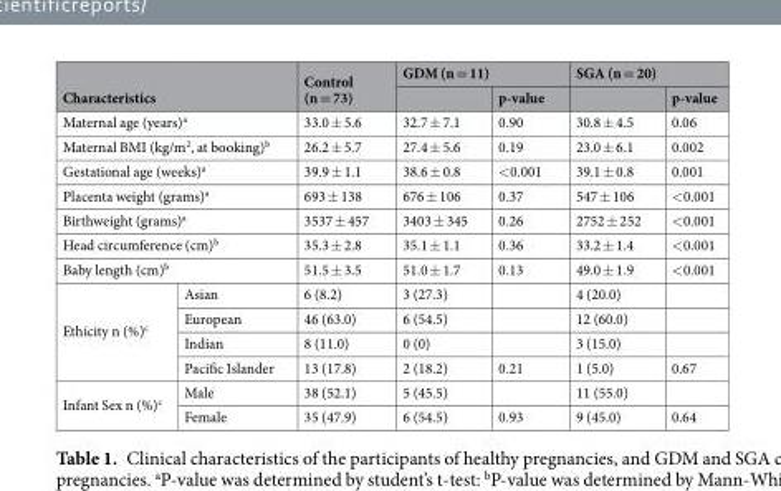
<table><thead><tr><td rowspan="2" colspan="2">Characteristics</td><td rowspan="2">Control (n = 73)</td><td colspan="2">GDM (n = 11)</td><td colspan="2">SGA (n = 20)</td></tr><tr><td></td><td>p-value</td><td></td><td>p-value</td></tr></thead><tbody><tr><td colspan="2">Maternal age (years)<sup>a</sup></td><td>33.0 ± 5.6</td><td>32.7 ± 7.1</td><td>0.90</td><td>30.8 ± 4.5</td><td>0.06</td></tr><tr><td colspan="2">Maternal BMI (kg/m<sup>2</sup>, at booking)<sup>b</sup></td><td>26.2 ± 5.7</td><td>27.4 ± 5.6</td><td>0.19</td><td>23.0 ± 6.1</td><td>0.002</td></tr><tr><td colspan="2">Gestational age (weeks)<sup>a</sup></td><td>39.9 ± 1.1</td><td>38.6 ± 0.8</td><td>&lt;0.001</td><td>39.1 ± 0.8</td><td>0.001</td></tr><tr><td colspan="2">Placenta weight (grams)<sup>a</sup></td><td>693 ± 138</td><td>676 ± 106</td><td>0.37</td><td>547 ± 106</td><td>&lt;0.001</td></tr><tr><td colspan="2">Birthweight (grams)<sup>a</sup></td><td>3537 ± 457</td><td>3403 ± 345</td><td>0.26</td><td>2752 ± 252</td><td>&lt;0.001</td></tr><tr><td colspan="2">Head circumference (cm)<sup>b</sup></td><td>35.3 ± 2.8</td><td>35.1 ± 1.1</td><td>0.36</td><td>33.2 ± 1.4</td><td>&lt;0.001</td></tr><tr><td colspan="2">Baby length (cm)<sup>b</sup></td><td>51.5 ± 3.5</td><td>51.0 ± 1.7</td><td>0.13</td><td>49.0 ± 1.9</td><td>&lt;0.001</td></tr><tr><td rowspan="4">Ethicity n (%)<sup>c</sup></td><td>Asian</td><td>6 (8.2)</td><td>3 (27.3)</td><td></td><td>4 (20.0)</td><td></td></tr><tr><td>European</td><td>46 (63.0)</td><td>6 (54.5)</td><td></td><td>12 (60.0)</td><td></td></tr><tr><td>Indian</td><td>8 (11.0)</td><td>0 (0)</td><td></td><td>3 (15.0)</td><td></td></tr><tr><td>Pacific Islander</td><td>13 (17.8)</td><td>2 (18.2)</td><td>0.21</td><td>1 (5.0)</td><td>0.67</td></tr><tr><td rowspan="2">Infant Sex n (%)<sup>c</sup></td><td>Male</td><td>38 (52.1)</td><td>5 (45.5)</td><td></td><td>11 (55.0)</td><td></td></tr><tr><td>Female</td><td>35 (47.9)</td><td>6 (54.5)</td><td>0.93</td><td>9 (45.0)</td><td>0.64</td></tr></tbody></table>